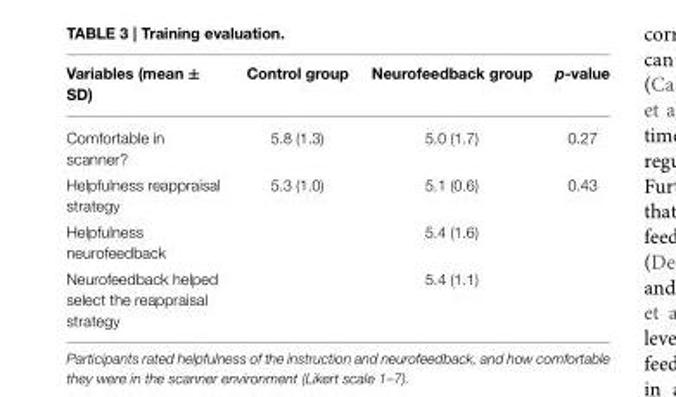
<table><thead><tr><td>Variables (mean ± SD)</td><td>Control group</td><td>Neurofeedback group</td><td>p-value</td></tr></thead><tbody><tr><td>Comfortable in scanner?</td><td>5.8 (1.3)</td><td>5.0 (1.7)</td><td>0.27</td></tr><tr><td>Helpfulness reappraisal strategy</td><td>5.3 (1.0)</td><td>5.1 (0.6)</td><td>0.43</td></tr><tr><td>Helpfulness neurofeedback</td><td></td><td>5.4 (1.6)</td><td></td></tr><tr><td>Neurofeedback helped select the reappraisal strategy</td><td></td><td>5.4 (1.1)</td><td></td></tr></tbody></table>